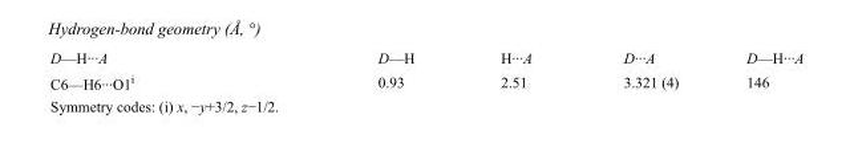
<table><tbody><tr><td>D—H···A</td><td>D—H</td><td>H···A</td><td>D···A</td><td>D—H···A</td></tr><tr><td>C6—H6···O1<sup>i</sup></td><td>0.93</td><td>2.51</td><td>3.321 (4)</td><td>146</td></tr></tbody></table>